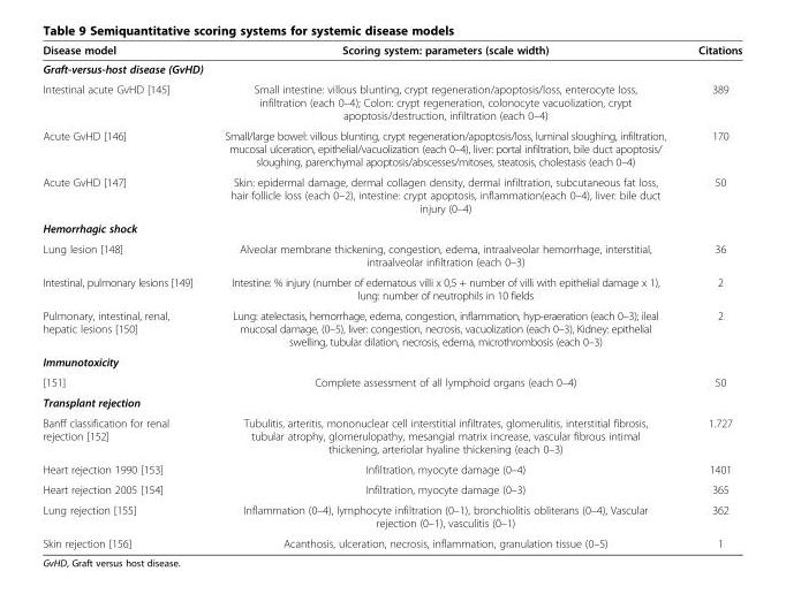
<table><thead><tr><td>Disease model</td><td>Scoring system: parameters (scale width)</td><td>Citations</td></tr></thead><tbody><tr><td colspan="3">Graft-versus-host disease (GvHD)</td></tr><tr><td>Intestinal acute GvHD [145]</td><td>Small intestine: villous blunting, crypt regeneration/apoptosis/loss, enterocyte loss, infiltration (each 0–4); Colon: crypt regeneration, colonocyte vacuolization, crypt apoptosis/destruction, infiltration (each 0–4)</td><td>389</td></tr><tr><td>Acute GvHD [146]</td><td>Small/large bowel: villous blunting, crypt regeneration/apoptosis/loss, luminal sloughing, infiltration, mucosal ulceration, epithelial/vacuolization (each 0–4), liver: portal infiltration, bile duct apoptosis/ sloughing, parenchymal apoptosis/abscesses/mitoses, steatosis, cholestasis (each 0–4)</td><td>170</td></tr><tr><td>Acute GvHD [147]</td><td>Skin: epidermal damage, dermal collagen density, dermal infiltration, subcutaneous fat loss, hair follicle loss (each 0–2), intestine: crypt apoptosis, inflammation(each 0–4), liver: bile duct injury (0–4)</td><td>50</td></tr><tr><td colspan="3">Hemorrhagic shock</td></tr><tr><td>Lung lesion [148]</td><td>Alveolar membrane thickening, congestion, edema, intraalveolar hemorrhage, interstitial, intraalveolar infiltration (each 0–3)</td><td>36</td></tr><tr><td>Intestinal, pulmonary lesions [149]</td><td>Intestine: % injury (number of edematous villi x 0,5 + number of villi with epithelial damage x 1), lung: number of neutrophils in 10 fields</td><td>2</td></tr><tr><td>Pulmonary, intestinal, renal, hepatic lesions [150]</td><td>Lung: atelectasis, hemorrhage, edema, congestion, inflammation, hyp-eraeration (each 0–3); ileal mucosal damage, (0–5), liver: congestion, necrosis, vacuolization (each 0–3), Kidney: epithelial swelling, tubular dilation, necrosis, edema, microthrombosis (each 0–3)</td><td>2</td></tr><tr><td colspan="3">Immunotoxicity</td></tr><tr><td>[151]</td><td>Complete assessment of all lymphoid organs (each 0–4)</td><td>50</td></tr><tr><td colspan="3">Transplant rejection</td></tr><tr><td>Banff classification for renal rejection [152]</td><td>Tubulitis, arteritis, mononuclear cell interstitial infiltrates, glomerulitis, interstitial fibrosis, tubular atrophy, glomerulopathy, mesangial matrix increase, vascular fibrous intimal thickening, arteriolar hyaline thickening (each 0–3)</td><td>1.727</td></tr><tr><td>Heart rejection 1990 [153]</td><td>Infiltration, myocyte damage (0–4)</td><td>1401</td></tr><tr><td>Heart rejection 2005 [154]</td><td>Infiltration, myocyte damage (0–3)</td><td>365</td></tr><tr><td>Lung rejection [155]</td><td>Inflammation (0–4), lymphocyte infiltration (0–1), bronchiolitis obliterans (0–4), Vascular rejection (0–1), vasculitis (0–1)</td><td>362</td></tr><tr><td>Skin rejection [156]</td><td>Acanthosis, ulceration, necrosis, inflammation, granulation tissue (0–5)</td><td>1</td></tr></tbody></table>